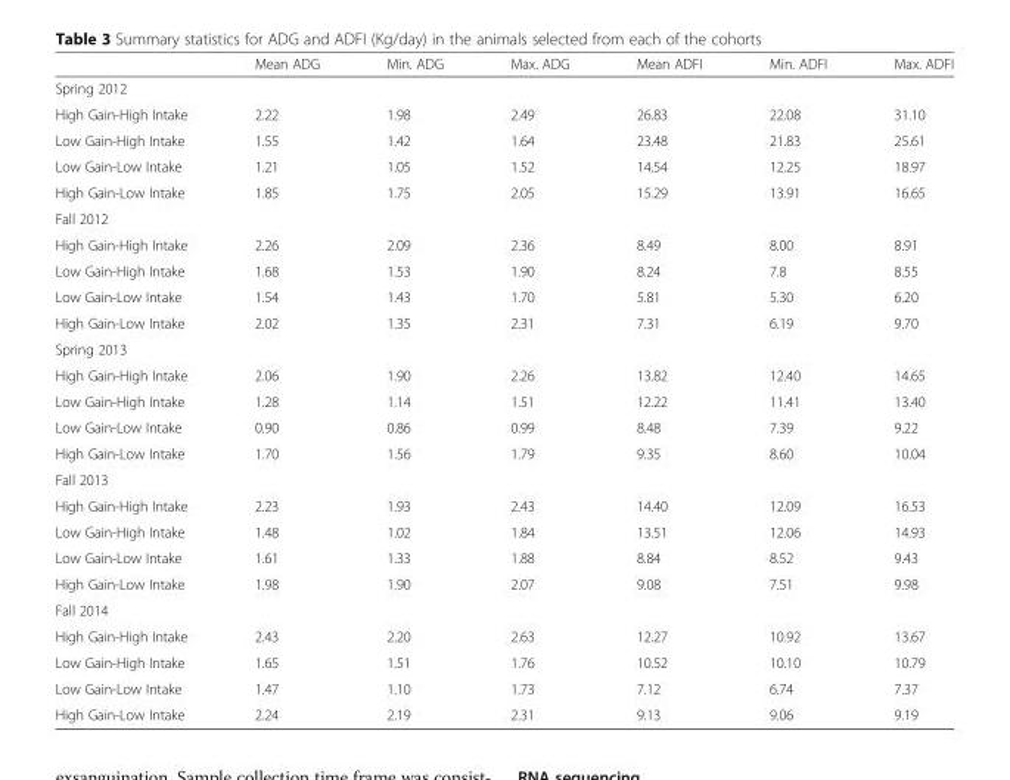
<table><thead><tr><td></td><td>Mean ADG</td><td>Min. ADG</td><td>Max. ADG</td><td>Mean ADFI</td><td>Min. ADFI</td><td>Max. ADFI</td></tr></thead><tbody><tr><td colspan="7">Spring 2012</td></tr><tr><td>High Gain-High Intake</td><td>2.22</td><td>1.98</td><td>2.49</td><td>26.83</td><td>22.08</td><td>31.10</td></tr><tr><td>Low Gain-High Intake</td><td>1.55</td><td>1.42</td><td>1.64</td><td>23.48</td><td>21.83</td><td>25.61</td></tr><tr><td>Low Gain-Low Intake</td><td>1.21</td><td>1.05</td><td>1.52</td><td>14.54</td><td>12.25</td><td>18.97</td></tr><tr><td>High Gain-Low Intake</td><td>1.85</td><td>1.75</td><td>2.05</td><td>15.29</td><td>13.91</td><td>16.65</td></tr><tr><td colspan="7">Fall 2012</td></tr><tr><td>High Gain-High Intake</td><td>2.26</td><td>2.09</td><td>2.36</td><td>8.49</td><td>8.00</td><td>8.91</td></tr><tr><td>Low Gain-High Intake</td><td>1.68</td><td>1.53</td><td>1.90</td><td>8.24</td><td>7.8</td><td>8.55</td></tr><tr><td>Low Gain-Low Intake</td><td>1.54</td><td>1.43</td><td>1.70</td><td>5.81</td><td>5.30</td><td>6.20</td></tr><tr><td>High Gain-Low Intake</td><td>2.02</td><td>1.35</td><td>2.31</td><td>7.31</td><td>6.19</td><td>9.70</td></tr><tr><td colspan="7">Spring 2013</td></tr><tr><td>High Gain-High Intake</td><td>2.06</td><td>1.90</td><td>2.26</td><td>13.82</td><td>12.40</td><td>14.65</td></tr><tr><td>Low Gain-High Intake</td><td>1.28</td><td>1.14</td><td>1.51</td><td>12.22</td><td>11.41</td><td>13.40</td></tr><tr><td>Low Gain-Low Intake</td><td>0.90</td><td>0.86</td><td>0.99</td><td>8.48</td><td>7.39</td><td>9.22</td></tr><tr><td>High Gain-Low Intake</td><td>1.70</td><td>1.56</td><td>1.79</td><td>9.35</td><td>8.60</td><td>10.04</td></tr><tr><td colspan="7">Fall 2013</td></tr><tr><td>High Gain-High Intake</td><td>2.23</td><td>1.93</td><td>2.43</td><td>14.40</td><td>12.09</td><td>16.53</td></tr><tr><td>Low Gain-High Intake</td><td>1.48</td><td>1.02</td><td>1.84</td><td>13.51</td><td>12.06</td><td>14.93</td></tr><tr><td>Low Gain-Low Intake</td><td>1.61</td><td>1.33</td><td>1.88</td><td>8.84</td><td>8.52</td><td>9.43</td></tr><tr><td>High Gain-Low Intake</td><td>1.98</td><td>1.90</td><td>2.07</td><td>9.08</td><td>7.51</td><td>9.98</td></tr><tr><td colspan="7">Fall 2014</td></tr><tr><td>High Gain-High Intake</td><td>2.43</td><td>2.20</td><td>2.63</td><td>12.27</td><td>10.92</td><td>13.67</td></tr><tr><td>Low Gain-High Intake</td><td>1.65</td><td>1.51</td><td>1.76</td><td>10.52</td><td>10.10</td><td>10.79</td></tr><tr><td>Low Gain-Low Intake</td><td>1.47</td><td>1.10</td><td>1.73</td><td>7.12</td><td>6.74</td><td>7.37</td></tr><tr><td>High Gain-Low Intake</td><td>2.24</td><td>2.19</td><td>2.31</td><td>9.13</td><td>9.06</td><td>9.19</td></tr></tbody></table>